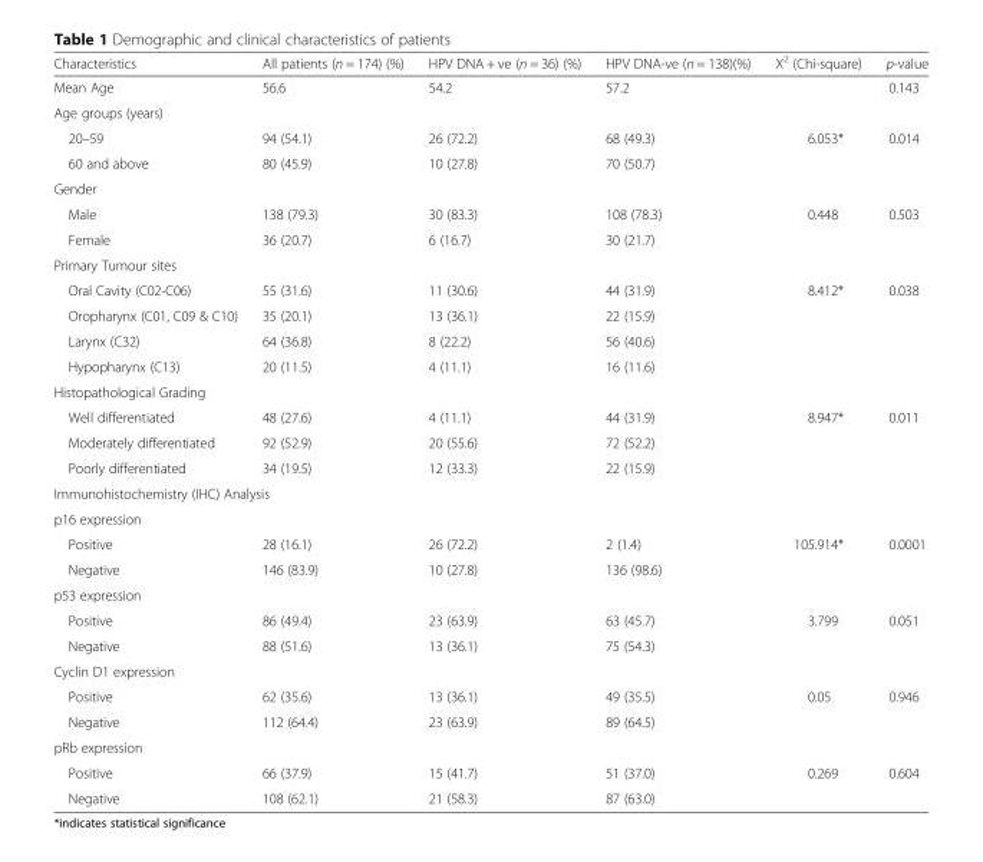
<table><thead><tr><td>Characteristics</td><td>All patients (n = 174) (%)</td><td>HPV DNA + ve (n = 36) (%)</td><td>HPV DNA-ve (n = 138)(%)</td><td>X<sup>2</sup> (Chi-square)</td><td>p-value</td></tr></thead><tbody><tr><td>Mean Age</td><td>56.6</td><td>54.2</td><td>57.2</td><td></td><td>0.143</td></tr><tr><td colspan="6">Age groups (years)</td></tr><tr><td>20–59</td><td>94 (54.1)</td><td>26 (72.2)</td><td>68 (49.3)</td><td>6.053*</td><td>0.014</td></tr><tr><td>60 and above</td><td>80 (45.9)</td><td>10 (27.8)</td><td>70 (50.7)</td><td></td><td></td></tr><tr><td colspan="6">Gender</td></tr><tr><td>Male</td><td>138 (79.3)</td><td>30 (83.3)</td><td>108 (78.3)</td><td>0.448</td><td>0.503</td></tr><tr><td>Female</td><td>36 (20.7)</td><td>6 (16.7)</td><td>30 (21.7)</td><td></td><td></td></tr><tr><td colspan="6">Primary Tumour sites</td></tr><tr><td>Oral Cavity (C02-C06)</td><td>55 (31.6)</td><td>11 (30.6)</td><td>44 (31.9)</td><td>8.412*</td><td>0.038</td></tr><tr><td>Oropharynx (C01, C09 &amp; C10)</td><td>35 (20.1)</td><td>13 (36.1)</td><td>22 (15.9)</td><td></td><td></td></tr><tr><td>Larynx (C32)</td><td>64 (36.8)</td><td>8 (22.2)</td><td>56 (40.6)</td><td></td><td></td></tr><tr><td>Hypopharynx (C13)</td><td>20 (11.5)</td><td>4 (11.1)</td><td>16 (11.6)</td><td></td><td></td></tr><tr><td colspan="6">Histopathological Grading</td></tr><tr><td>Well differentiated</td><td>48 (27.6)</td><td>4 (11.1)</td><td>44 (31.9)</td><td>8.947*</td><td>0.011</td></tr><tr><td>Moderately differentiated</td><td>92 (52.9)</td><td>20 (55.6)</td><td>72 (52.2)</td><td></td><td></td></tr><tr><td>Poorly differentiated</td><td>34 (19.5)</td><td>12 (33.3)</td><td>22 (15.9)</td><td></td><td></td></tr><tr><td colspan="6">Immunohistochemistry (IHC) Analysis</td></tr><tr><td colspan="6">p16 expression</td></tr><tr><td>Positive</td><td>28 (16.1)</td><td>26 (72.2)</td><td>2 (1.4)</td><td>105.914*</td><td>0.0001</td></tr><tr><td>Negative</td><td>146 (83.9)</td><td>10 (27.8)</td><td>136 (98.6)</td><td></td><td></td></tr><tr><td colspan="6">p53 expression</td></tr><tr><td>Positive</td><td>86 (49.4)</td><td>23 (63.9)</td><td>63 (45.7)</td><td>3.799</td><td>0.051</td></tr><tr><td>Negative</td><td>88 (51.6)</td><td>13 (36.1)</td><td>75 (54.3)</td><td></td><td></td></tr><tr><td colspan="6">Cyclin D1 expression</td></tr><tr><td>Positive</td><td>62 (35.6)</td><td>13 (36.1)</td><td>49 (35.5)</td><td>0.05</td><td>0.946</td></tr><tr><td>Negative</td><td>112 (64.4)</td><td>23 (63.9)</td><td>89 (64.5)</td><td></td><td></td></tr><tr><td colspan="6">pRb expression</td></tr><tr><td>Positive</td><td>66 (37.9)</td><td>15 (41.7)</td><td>51 (37.0)</td><td>0.269</td><td>0.604</td></tr><tr><td>Negative</td><td>108 (62.1)</td><td>21 (58.3)</td><td>87 (63.0)</td><td></td><td></td></tr></tbody></table>